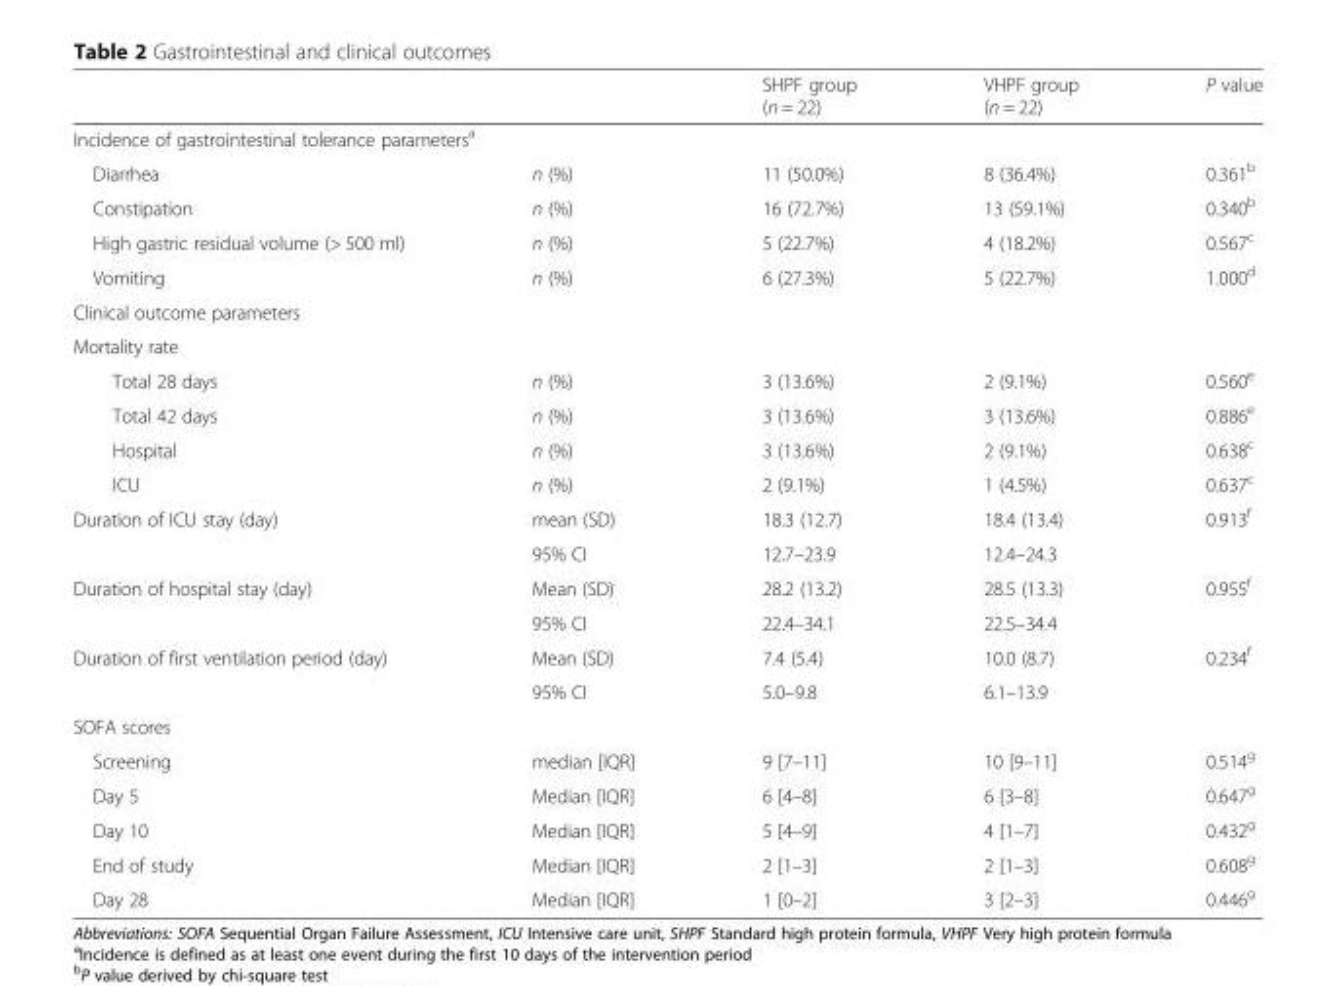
<table><thead><tr><td></td><td></td><td>SHPF group (n = 22)</td><td>VHPF group (n = 22)</td><td>P value</td></tr></thead><tbody><tr><td colspan="5">Incidence of gastrointestinal tolerance parameters<sup>a</sup></td></tr><tr><td>Diarrhea</td><td>n (%)</td><td>11 (50.0%)</td><td>8 (36.4%)</td><td>0.361<sup>b</sup></td></tr><tr><td>Constipation</td><td>n (%)</td><td>16 (72.7%)</td><td>13 (59.1%)</td><td>0.340<sup>b</sup></td></tr><tr><td>High gastric residual volume (&gt; 500 ml)</td><td>n (%)</td><td>5 (22.7%)</td><td>4 (18.2%)</td><td>0.567<sup>c</sup></td></tr><tr><td>Vomiting</td><td>n (%)</td><td>6 (27.3%)</td><td>5 (22.7%)</td><td>1.000<sup>d</sup></td></tr><tr><td colspan="5">Clinical outcome parameters</td></tr><tr><td colspan="5">Mortality rate</td></tr><tr><td>Total 28 days</td><td>n (%)</td><td>3 (13.6%)</td><td>2 (9.1%)</td><td>0.560<sup>e</sup></td></tr><tr><td>Total 42 days</td><td>n (%)</td><td>3 (13.6%)</td><td>3 (13.6%)</td><td>0.886<sup>e</sup></td></tr><tr><td>Hospital</td><td>n (%)</td><td>3 (13.6%)</td><td>2 (9.1%)</td><td>0.638<sup>c</sup></td></tr><tr><td>ICU</td><td>n (%)</td><td>2 (9.1%)</td><td>1 (4.5%)</td><td>0.637<sup>c</sup></td></tr><tr><td rowspan="2">Duration of ICU stay (day)</td><td>mean (SD)</td><td>18.3 (12.7)</td><td>18.4 (13.4)</td><td>0.913<sup>f</sup></td></tr><tr><td>95% CI</td><td>12.7–23.9</td><td>12.4–24.3</td><td></td></tr><tr><td rowspan="2">Duration of hospital stay (day)</td><td>Mean (SD)</td><td>28.2 (13.2)</td><td>28.5 (13.3)</td><td>0.955<sup>f</sup></td></tr><tr><td>95% CI</td><td>22.4–34.1</td><td>22.5–34.4</td><td></td></tr><tr><td rowspan="2">Duration of first ventilation period (day)</td><td>Mean (SD)</td><td>7.4 (5.4)</td><td>10.0 (8.7)</td><td>0.234<sup>f</sup></td></tr><tr><td>95% CI</td><td>5.0–9.8</td><td>6.1–13.9</td><td></td></tr><tr><td colspan="5">SOFA scores</td></tr><tr><td>Screening</td><td>median [IQR]</td><td>9 [7–11]</td><td>10 [9–11]</td><td>0.514<sup>g</sup></td></tr><tr><td>Day 5</td><td>Median [IQR]</td><td>6 [4–8]</td><td>6 [3–8]</td><td>0.647<sup>g</sup></td></tr><tr><td>Day 10</td><td>Median [IQR]</td><td>5 [4–9]</td><td>4 [1–7]</td><td>0.432<sup>g</sup></td></tr><tr><td>End of study</td><td>Median [IQR]</td><td>2 [1–3]</td><td>2 [1–3]</td><td>0.608<sup>g</sup></td></tr><tr><td>Day 28</td><td>Median [IQR]</td><td>1 [0–2]</td><td>3 [2–3]</td><td>0.446<sup>g</sup></td></tr></tbody></table>